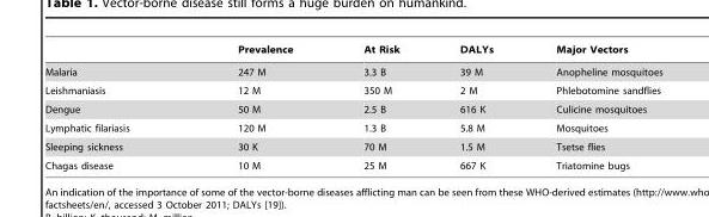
<table><thead><tr><td></td><td>Prevalence</td><td>At Risk</td><td>DALYs</td><td>Major Vectors</td></tr></thead><tbody><tr><td>Malaria</td><td>247 M</td><td>3.3 B</td><td>39 M</td><td>Anopheline mosquitoes</td></tr><tr><td>Leishmaniasis</td><td>12 M</td><td>350 M</td><td>2 M</td><td>Phlebotomine sandflies</td></tr><tr><td>Dengue</td><td>50 M</td><td>2.5 B</td><td>616 K</td><td>Culicine mosquitoes</td></tr><tr><td>Lymphatic filariasis</td><td>120 M</td><td>1.3 B</td><td>5.8 M</td><td>Mosquitoes</td></tr><tr><td>Sleeping sickness</td><td>30 K</td><td>70 M</td><td>1.5 M</td><td>Tsetse flies</td></tr><tr><td>Chagas disease</td><td>10 M</td><td>25 M</td><td>667 K</td><td>Triatomine bugs</td></tr></tbody></table>